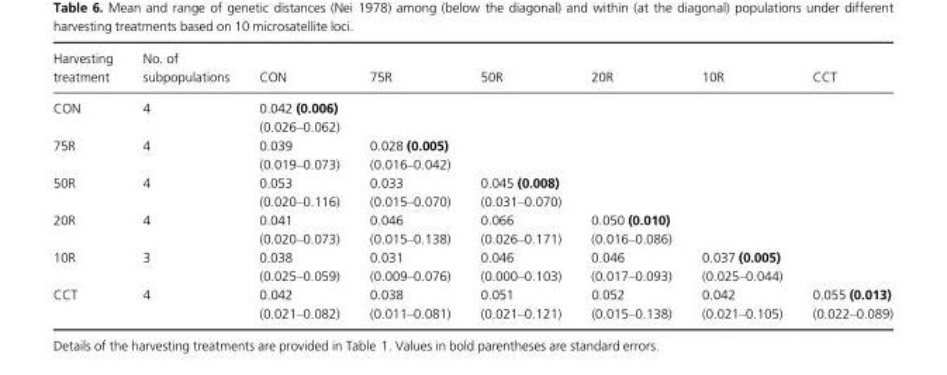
<table><thead><tr><td>Harvesting treatment</td><td>No. of subpopulations</td><td>CON</td><td>75R</td><td>50R</td><td>20R</td><td>10R</td><td>CCT</td></tr></thead><tbody><tr><td>CON</td><td>4</td><td>0.042 (0.006) (0.026–0.062)</td><td></td><td></td><td></td><td></td><td></td></tr><tr><td>75R</td><td>4</td><td>0.039 (0.019–0.073)</td><td>0.028 (0.005) (0.016–0.042)</td><td></td><td></td><td></td><td></td></tr><tr><td>50R</td><td>4</td><td>0.053 (0.020–0.116)</td><td>0.033 (0.015–0.070)</td><td>0.045 (0.008) (0.031–0.070)</td><td></td><td></td><td></td></tr><tr><td>20R</td><td>4</td><td>0.041 (0.020–0.073)</td><td>0.046 (0.015–0.138)</td><td>0.066 (0.026–0.171)</td><td>0.050 (0.010) (0.016–0.086)</td><td></td><td></td></tr><tr><td>10R</td><td>3</td><td>0.038 (0.025–0.059)</td><td>0.031 (0.009–0.076)</td><td>0.046 (0.000–0.103)</td><td>0.046 (0.017–0.093)</td><td>0.037 (0.005) (0.025–0.044)</td><td></td></tr><tr><td>CCT</td><td>4</td><td>0.042 (0.021–0.082)</td><td>0.038 (0.011–0.081)</td><td>0.051 (0.021–0.121)</td><td>0.052 (0.015–0.138)</td><td>0.042 (0.021–0.105)</td><td>0.055 (0.013) (0.022–0.089)</td></tr></tbody></table>